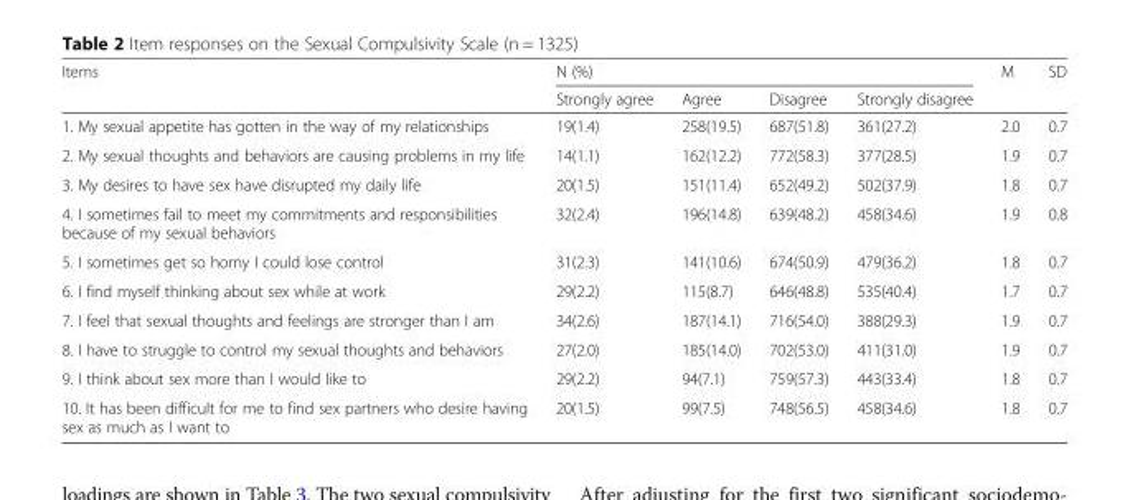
<table><thead><tr><td rowspan="2">Items</td><td colspan="4">N (%)</td><td rowspan="2">M</td><td rowspan="2">SD</td></tr><tr><td>Strongly agree</td><td>Agree</td><td>Disagree</td><td>Strongly disagree</td></tr></thead><tbody><tr><td>1. My sexual appetite has gotten in the way of my relationships</td><td>19(1.4)</td><td>258(19.5)</td><td>687(51.8)</td><td>361(27.2)</td><td>2.0</td><td>0.7</td></tr><tr><td>2. My sexual thoughts and behaviors are causing problems in my life</td><td>14(1.1)</td><td>162(12.2)</td><td>772(58.3)</td><td>377(28.5)</td><td>1.9</td><td>0.7</td></tr><tr><td>3. My desires to have sex have disrupted my daily life</td><td>20(1.5)</td><td>151(11.4)</td><td>652(49.2)</td><td>502(37.9)</td><td>1.8</td><td>0.7</td></tr><tr><td>4. I sometimes fail to meet my commitments and responsibilities because of my sexual behaviors</td><td>32(2.4)</td><td>196(14.8)</td><td>639(48.2)</td><td>458(34.6)</td><td>1.9</td><td>0.8</td></tr><tr><td>5. I sometimes get so horny I could lose control</td><td>31(2.3)</td><td>141(10.6)</td><td>674(50.9)</td><td>479(36.2)</td><td>1.8</td><td>0.7</td></tr><tr><td>6. I find myself thinking about sex while at work</td><td>29(2.2)</td><td>115(8.7)</td><td>646(48.8)</td><td>535(40.4)</td><td>1.7</td><td>0.7</td></tr><tr><td>7. I feel that sexual thoughts and feelings are stronger than I am</td><td>34(2.6)</td><td>187(14.1)</td><td>716(54.0)</td><td>388(29.3)</td><td>1.9</td><td>0.7</td></tr><tr><td>8. I have to struggle to control my sexual thoughts and behaviors</td><td>27(2.0)</td><td>185(14.0)</td><td>702(53.0)</td><td>411(31.0)</td><td>1.9</td><td>0.7</td></tr><tr><td>9. I think about sex more than I would like to</td><td>29(2.2)</td><td>94(7.1)</td><td>759(57.3)</td><td>443(33.4)</td><td>1.8</td><td>0.7</td></tr><tr><td>10. It has been difficult for me to find sex partners who desire having sex as much as I want to</td><td>20(1.5)</td><td>99(7.5)</td><td>748(56.5)</td><td>458(34.6)</td><td>1.8</td><td>0.7</td></tr></tbody></table>